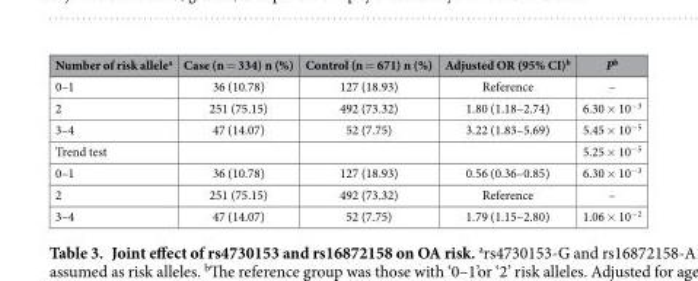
<table><thead><tr><td>Number of risk allele<sup>a</sup></td><td>Case (n = 334) n (%)</td><td>Control (n = 671) n (%)</td><td>Adjusted OR (95% CI)<sup>b</sup></td><td>P<sup>b</sup></td></tr></thead><tbody><tr><td>0–1</td><td>36 (10.78)</td><td>127 (18.93)</td><td>Reference</td><td>–</td></tr><tr><td>2</td><td>251 (75.15)</td><td>492 (73.32)</td><td>1.80 (1.18–2.74)</td><td>6.30 × 10<sup>−3</sup></td></tr><tr><td>3–4</td><td>47 (14.07)</td><td>52 (7.75)</td><td>3.22 (1.83–5.69)</td><td>5.45 × 10<sup>−5</sup></td></tr><tr><td>Trend test</td><td></td><td></td><td></td><td>5.25 × 10<sup>−5</sup></td></tr><tr><td>0–1</td><td>36 (10.78)</td><td>127 (18.93)</td><td>0.56 (0.36–0.85)</td><td>6.30 × 10<sup>−3</sup></td></tr><tr><td>2</td><td>251 (75.15)</td><td>492 (73.32)</td><td>Reference</td><td>–</td></tr><tr><td>3–4</td><td>47 (14.07)</td><td>52 (7.75)</td><td>1.79 (1.15–2.80)</td><td>1.06 × 10<sup>−2</sup></td></tr></tbody></table>